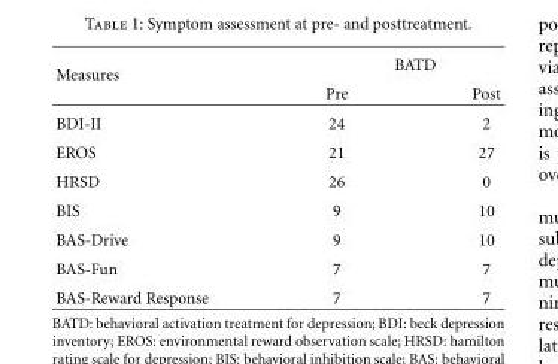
<table><thead><tr><td rowspan="2">Measures</td><td colspan="2">BATD</td></tr><tr><td>Pre</td><td>Post</td></tr></thead><tbody><tr><td>BDI-II</td><td>24</td><td>2</td></tr><tr><td>EROS</td><td>21</td><td>27</td></tr><tr><td>HRSD</td><td>26</td><td>0</td></tr><tr><td>BIS</td><td>9</td><td>10</td></tr><tr><td>BAS-Drive</td><td>9</td><td>10</td></tr><tr><td>BAS-Fun</td><td>7</td><td>7</td></tr><tr><td>BAS-Reward Response</td><td>7</td><td>7</td></tr></tbody></table>